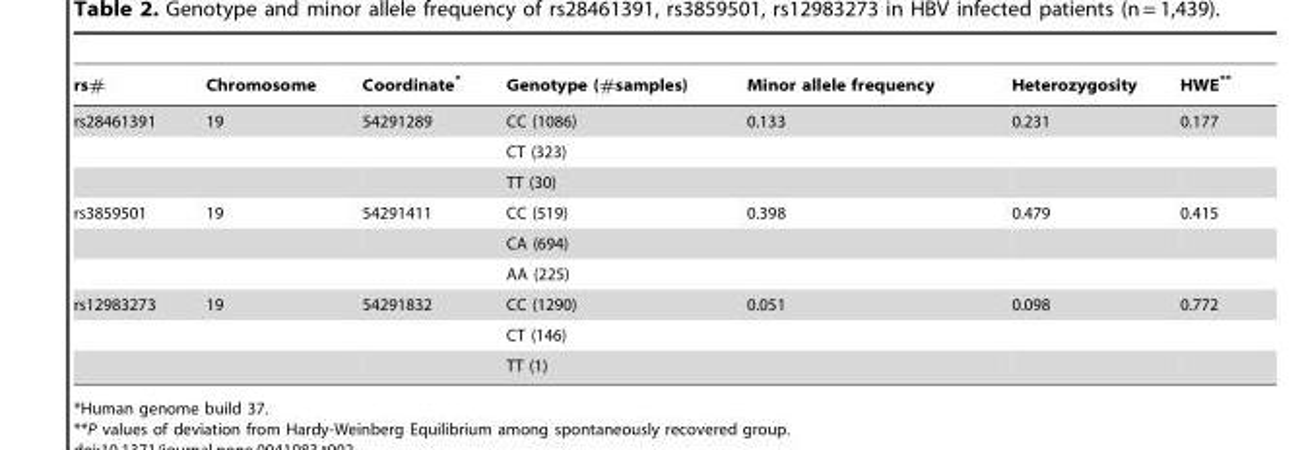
<table><thead><tr><td>rs#</td><td>Chromosome</td><td>Coordinate*</td><td>Genotype (#samples)</td><td>Minor allele frequency</td><td>Heterozygosity</td><td>HWE**</td></tr></thead><tbody><tr><td rowspan="3">rs28461391</td><td>19</td><td>54291289</td><td>CC (1086)</td><td>0.133</td><td>0.231</td><td>0.177</td></tr><tr><td></td><td></td><td>CT (323)</td><td></td><td></td><td></td></tr><tr><td></td><td></td><td>TT (30)</td><td></td><td></td><td></td></tr><tr><td rowspan="3">rs3859501</td><td>19</td><td>54291411</td><td>CC (519)</td><td>0.398</td><td>0.479</td><td>0.415</td></tr><tr><td></td><td></td><td>CA (694)</td><td></td><td></td><td></td></tr><tr><td></td><td></td><td>AA (225)</td><td></td><td></td><td></td></tr><tr><td rowspan="3">rs12983273</td><td>19</td><td>54291832</td><td>CC (1290)</td><td>0.051</td><td>0.098</td><td>0.772</td></tr><tr><td></td><td></td><td>CT (146)</td><td></td><td></td><td></td></tr><tr><td></td><td></td><td>TT (1)</td><td></td><td></td><td></td></tr></tbody></table>